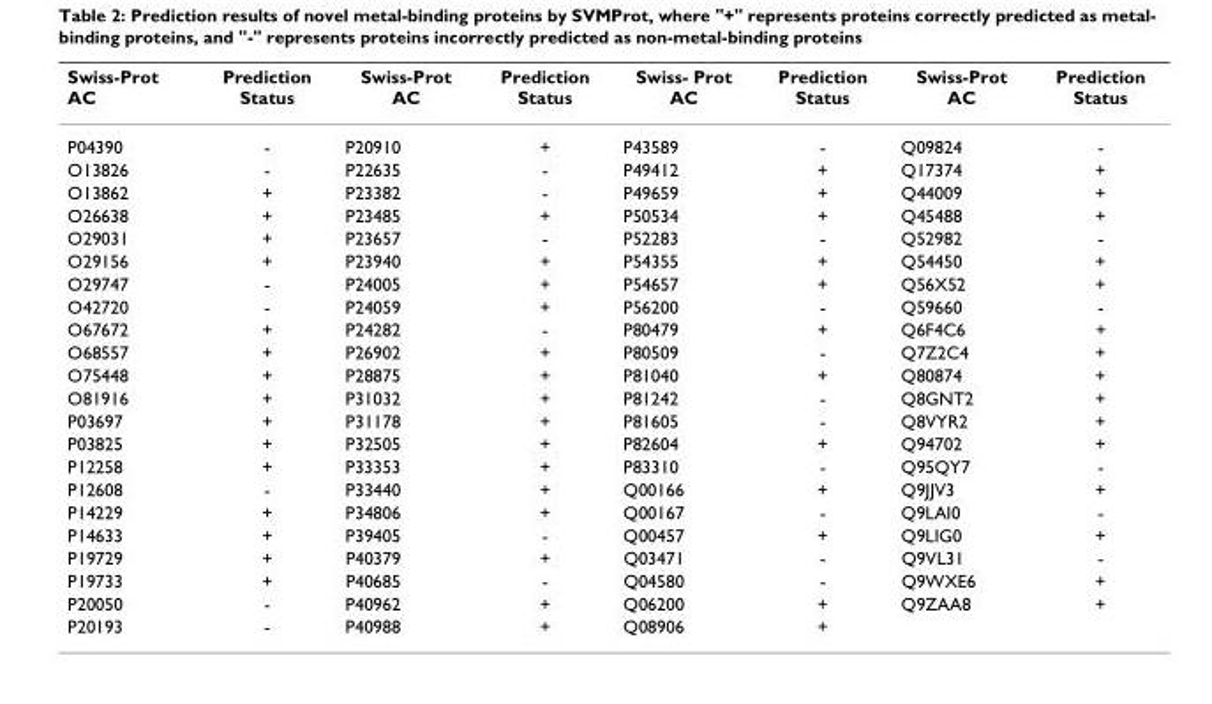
<table><thead><tr><td>Swiss-Prot AC</td><td>Prediction Status</td><td>Swiss-Prot AC</td><td>Prediction Status</td><td>Swiss- Prot AC</td><td>Prediction Status</td><td>Swiss-Prot AC</td><td>Prediction Status</td></tr></thead><tbody><tr><td>P04390</td><td>-</td><td>P20910</td><td>+</td><td>P43589</td><td>-</td><td>Q09824</td><td>-</td></tr><tr><td>O13826</td><td>-</td><td>P22635</td><td>-</td><td>P49412</td><td>+</td><td>Q17374</td><td>+</td></tr><tr><td>O13862</td><td>+</td><td>P23382</td><td>-</td><td>P49659</td><td>+</td><td>Q44009</td><td>+</td></tr><tr><td>O26638</td><td>+</td><td>P23485</td><td>+</td><td>P50534</td><td>+</td><td>Q45488</td><td>+</td></tr><tr><td>O29031</td><td>+</td><td>P23657</td><td>-</td><td>P52283</td><td>-</td><td>Q52982</td><td>-</td></tr><tr><td>O29156</td><td>+</td><td>P23940</td><td>+</td><td>P54355</td><td>+</td><td>Q54450</td><td>+</td></tr><tr><td>O29747</td><td>-</td><td>P24005</td><td>+</td><td>P54657</td><td>+</td><td>Q56X52</td><td>+</td></tr><tr><td>O42720</td><td>-</td><td>P24059</td><td>+</td><td>P56200</td><td>-</td><td>Q59660</td><td>-</td></tr><tr><td>O67672</td><td>+</td><td>P24282</td><td>-</td><td>P80479</td><td>+</td><td>Q6F4C6</td><td>+</td></tr><tr><td>O68557</td><td>+</td><td>P26902</td><td>+</td><td>P80509</td><td>-</td><td>Q7Z2C4</td><td>+</td></tr><tr><td>O75448</td><td>+</td><td>P28875</td><td>+</td><td>P81040</td><td>+</td><td>Q80874</td><td>+</td></tr><tr><td>O81916</td><td>+</td><td>P31032</td><td>+</td><td>P81242</td><td>-</td><td>Q8GNT2</td><td>+</td></tr><tr><td>P03697</td><td>+</td><td>P31178</td><td>+</td><td>P81605</td><td>-</td><td>Q8VYR2</td><td>+</td></tr><tr><td>P03825</td><td>+</td><td>P32505</td><td>+</td><td>P82604</td><td>+</td><td>Q94702</td><td>+</td></tr><tr><td>P12258</td><td>+</td><td>P33353</td><td>+</td><td>P83310</td><td>-</td><td>Q95QY7</td><td>-</td></tr><tr><td>P12608</td><td>-</td><td>P33440</td><td>+</td><td>Q00166</td><td>+</td><td>Q9JJV3</td><td>+</td></tr><tr><td>P14229</td><td>+</td><td>P34806</td><td>+</td><td>Q00167</td><td>-</td><td>Q9LAI0</td><td>-</td></tr><tr><td>P14633</td><td>+</td><td>P39405</td><td>-</td><td>Q00457</td><td>+</td><td>Q9LIG0</td><td>+</td></tr><tr><td>P19729</td><td>+</td><td>P40379</td><td>+</td><td>Q03471</td><td>-</td><td>Q9VL31</td><td>-</td></tr><tr><td>P19733</td><td>+</td><td>P40685</td><td>-</td><td>Q04580</td><td>-</td><td>Q9WXE6</td><td>+</td></tr><tr><td>P20050</td><td>-</td><td>P40962</td><td>+</td><td>Q06200</td><td>+</td><td>Q9ZAA8</td><td>+</td></tr><tr><td>P20193</td><td>-</td><td>P40988</td><td>+</td><td>Q08906</td><td>+</td><td></td><td></td></tr></tbody></table>